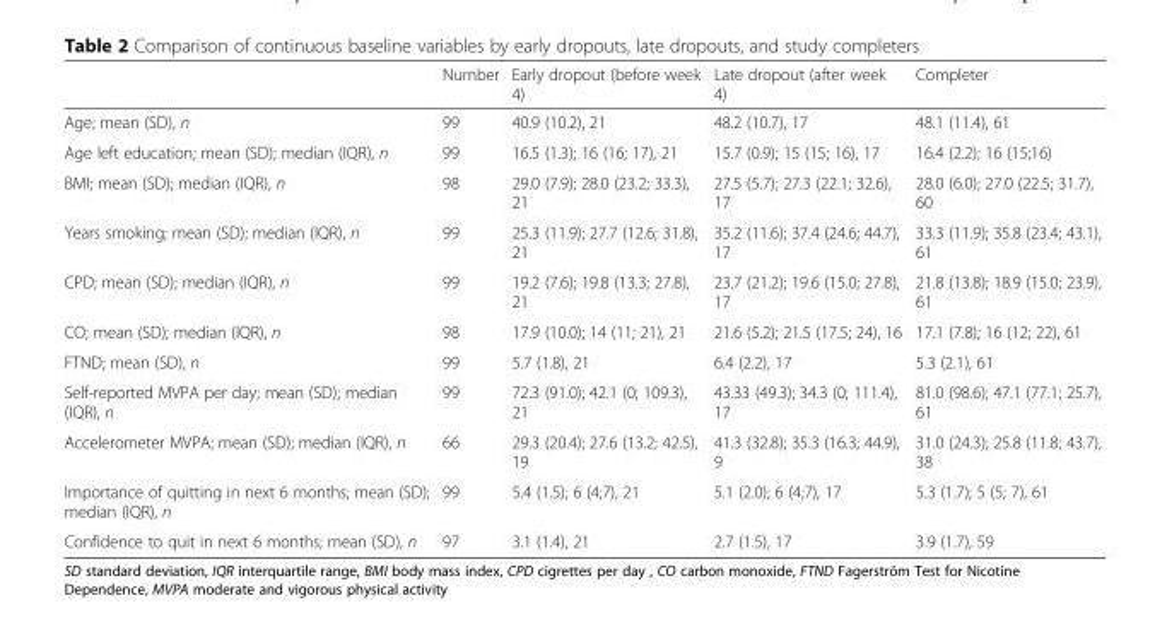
<table><thead><tr><td></td><td>Number</td><td>Early dropout (before week 4)</td><td>Late dropout (after week 4)</td><td>Completer</td></tr></thead><tbody><tr><td>Age; mean (SD), n</td><td>99</td><td>40.9 (10.2), 21</td><td>48.2 (10.7), 17</td><td>48.1 (11.4), 61</td></tr><tr><td>Age left education; mean (SD); median (IQR), n</td><td>99</td><td>16.5 (1.3); 16 (16; 17), 21</td><td>15.7 (0.9); 15 (15; 16), 17</td><td>16.4 (2.2); 16 (15;16)</td></tr><tr><td>BMI; mean (SD); median (IQR), n</td><td>98</td><td>29.0 (7.9); 28.0 (23.2; 33.3), 21</td><td>27.5 (5.7); 27.3 (22.1; 32.6), 17</td><td>28.0 (6.0); 27.0 (22.5; 31.7), 60</td></tr><tr><td>Years smoking; mean (SD); median (IQR), n</td><td>99</td><td>25.3 (11.9); 27.7 (12.6; 31.8), 21</td><td>35.2 (11.6); 37.4 (24.6; 44.7), 17</td><td>33.3 (11.9); 35.8 (23.4; 43.1), 61</td></tr><tr><td>CPD; mean (SD); median (IQR), n</td><td>99</td><td>19.2 (7.6); 19.8 (13.3; 27.8), 21</td><td>23.7 (21.2); 19.6 (15.0; 27.8), 17</td><td>21.8 (13.8); 18.9 (15.0; 23.9), 61</td></tr><tr><td>CO; mean (SD); median (IQR), n</td><td>98</td><td>17.9 (10.0); 14 (11; 21), 21</td><td>21.6 (5.2); 21.5 (17.5; 24), 16</td><td>17.1 (7.8); 16 (12; 22), 61</td></tr><tr><td>FTND; mean (SD), n</td><td>99</td><td>5.7 (1.8), 21</td><td>6.4 (2.2), 17</td><td>5.3 (2.1), 61</td></tr><tr><td>Self-reported MVPA per day; mean (SD); median (IQR), n</td><td>99</td><td>72.3 (91.0); 42.1 (0; 109.3), 21</td><td>43.33 (49.3); 34.3 (0; 111.4), 17</td><td>81.0 (98.6); 47.1 (77.1; 25.7), 61</td></tr><tr><td>Accelerometer MVPA; mean (SD); median (IQR), n</td><td>66</td><td>29.3 (20.4); 27.6 (13.2; 42.5), 19</td><td>41.3 (32.8); 35.3 (16.3; 44.9), 9</td><td>31.0 (24.3); 25.8 (11.8; 43.7), 38</td></tr><tr><td>Importance of quitting in next 6 months; mean (SD); median (IQR), n</td><td>99</td><td>5.4 (1.5); 6 (4;7), 21</td><td>5.1 (2.0); 6 (4;7), 17</td><td>5.3 (1.7); 5 (5; 7), 61</td></tr><tr><td>Confidence to quit in next 6 months; mean (SD), n</td><td>97</td><td>3.1 (1.4), 21</td><td>2.7 (1.5), 17</td><td>3.9 (1.7), 59</td></tr></tbody></table>